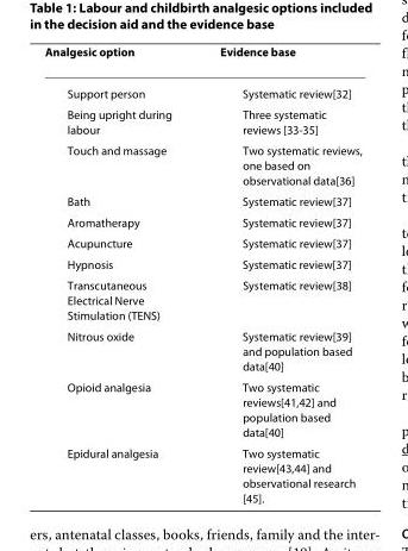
<table><thead><tr><td>Analgesic option</td><td>Evidence base</td></tr></thead><tbody><tr><td>Support person</td><td>Systematic review[32]</td></tr><tr><td>Being upright during labour</td><td>Three systematic reviews [33-35]</td></tr><tr><td>Touch and massage</td><td>Two systematic reviews, one based on observational data[36]</td></tr><tr><td>Bath</td><td>Systematic review[37]</td></tr><tr><td>Aromatherapy</td><td>Systematic review[37]</td></tr><tr><td>Acupuncture</td><td>Systematic review[37]</td></tr><tr><td>Hypnosis</td><td>Systematic review[37]</td></tr><tr><td>Transcutaneous Electrical Nerve Stimulation (TENS)</td><td>Systematic review[38]</td></tr><tr><td>Nitrous oxide</td><td>Systematic review[39] and population based data[40]</td></tr><tr><td>Opioid analgesia</td><td>Two systematic reviews[41,42] and population based data[40]</td></tr><tr><td>Epidural analgesia</td><td>Two systematic review[43,44] and observational research [45].</td></tr></tbody></table>